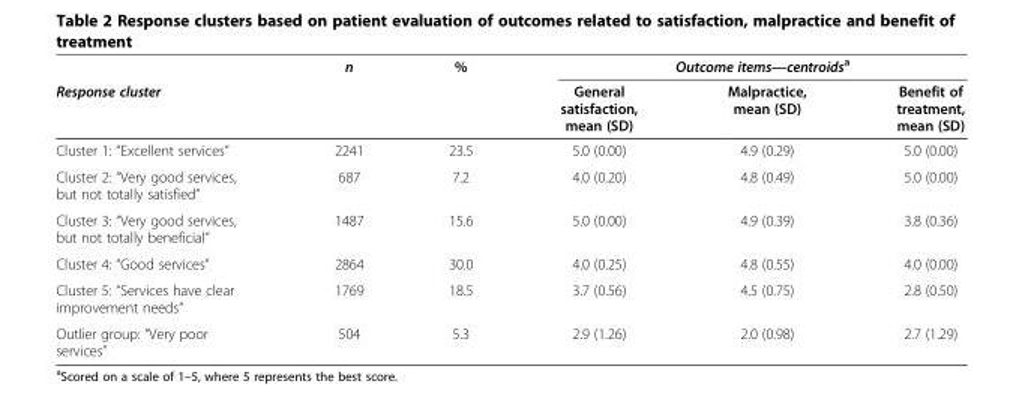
<table><thead><tr><td rowspan="2">Response cluster</td><td rowspan="2">n</td><td rowspan="2">%</td><td colspan="3">Outcome items—centroids<sup>a</sup></td></tr><tr><td>General satisfaction, mean (SD)</td><td>Malpractice, mean (SD)</td><td>Benefit of treatment, mean (SD)</td></tr></thead><tbody><tr><td>Cluster 1: “Excellent services”</td><td>2241</td><td>23.5</td><td>5.0 (0.00)</td><td>4.9 (0.29)</td><td>5.0 (0.00)</td></tr><tr><td>Cluster 2: “Very good services, but not totally satisfied”</td><td>687</td><td>7.2</td><td>4.0 (0.20)</td><td>4.8 (0.49)</td><td>5.0 (0.00)</td></tr><tr><td>Cluster 3: “Very good services, but not totally beneficial”</td><td>1487</td><td>15.6</td><td>5.0 (0.00)</td><td>4.9 (0.39)</td><td>3.8 (0.36)</td></tr><tr><td>Cluster 4: “Good services”</td><td>2864</td><td>30.0</td><td>4.0 (0.25)</td><td>4.8 (0.55)</td><td>4.0 (0.00)</td></tr><tr><td>Cluster 5: “Services have clear improvement needs”</td><td>1769</td><td>18.5</td><td>3.7 (0.56)</td><td>4.5 (0.75)</td><td>2.8 (0.50)</td></tr><tr><td>Outlier group: “Very poor services”</td><td>504</td><td>5.3</td><td>2.9 (1.26)</td><td>2.0 (0.98)</td><td>2.7 (1.29)</td></tr></tbody></table>